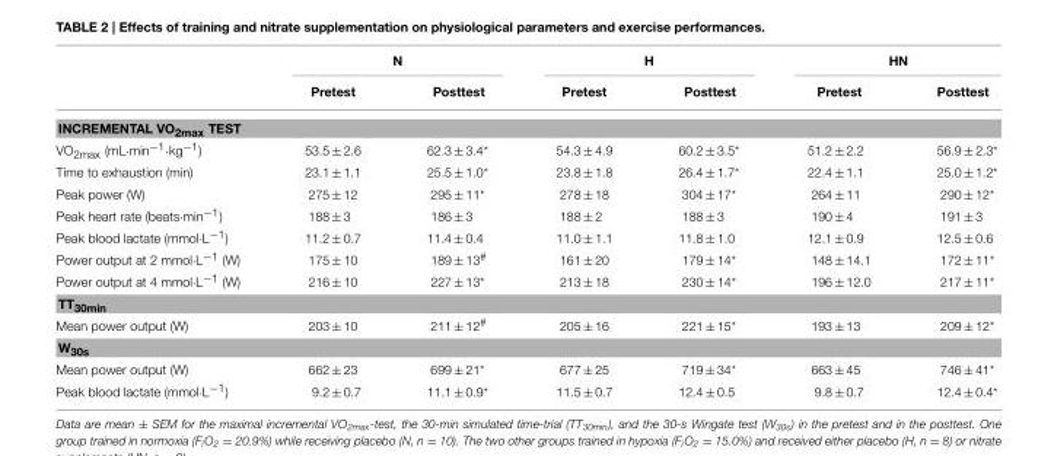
<table><thead><tr><td rowspan="2"></td><td colspan="2">N</td><td colspan="2">H</td><td colspan="2">HN</td></tr><tr><td>Pretest</td><td>Posttest</td><td>Pretest</td><td>Posttest</td><td>Pretest</td><td>Posttest</td></tr></thead><tbody><tr><td colspan="7">INCREMENTAL VO<sub>2max</sub> TEST</td></tr><tr><td>VO<sub>2max</sub> (mL·min<sup>−1</sup>·kg<sup>−1</sup>)</td><td>53.5 ± 2.6</td><td>62.3 ± 3.4*</td><td>54.3 ± 4.9</td><td>60.2 ± 3.5*</td><td>51.2 ± 2.2</td><td>56.9 ± 2.3*</td></tr><tr><td>Time to exhaustion (min)</td><td>23.1 ± 1.1</td><td>25.5 ± 1.0*</td><td>23.8 ± 1.8</td><td>26.4 ± 1.7*</td><td>22.4 ± 1.1</td><td>25.0 ± 1.2*</td></tr><tr><td>Peak power (W)</td><td>275 ± 12</td><td>295 ± 11*</td><td>278 ± 18</td><td>304 ± 17*</td><td>264 ± 11</td><td>290 ± 12*</td></tr><tr><td>Peak heart rate (beats·min<sup>−1</sup>)</td><td>188 ± 3</td><td>186 ± 3</td><td>188 ± 2</td><td>188 ± 3</td><td>190 ± 4</td><td>191 ± 3</td></tr><tr><td>Peak blood lactate (mmol·L<sup>−1</sup>)</td><td>11.2 ± 0.7</td><td>11.4 ± 0.4</td><td>11.0 ± 1.1</td><td>11.8 ± 1.0</td><td>12.1 ± 0.9</td><td>12.5 ± 0.6</td></tr><tr><td>Power output at 2 mmol·L<sup>−1</sup> (W)</td><td>175 ± 10</td><td>189 ± 13<sup>#</sup></td><td>161 ± 20</td><td>179 ± 14*</td><td>148 ± 14.1</td><td>172 ± 11*</td></tr><tr><td>Power output at 4 mmol·L<sup>−1</sup> (W)</td><td>216 ± 10</td><td>227 ± 13*</td><td>213 ± 18</td><td>230 ± 14*</td><td>196 ± 12.0</td><td>217 ± 11*</td></tr><tr><td colspan="7">TT<sub>30min</sub></td></tr><tr><td>Mean power output (W)</td><td>203 ± 10</td><td>211 ± 12<sup>#</sup></td><td>205 ± 16</td><td>221 ± 15*</td><td>193 ± 13</td><td>209 ± 12*</td></tr><tr><td colspan="7">W<sub>30s</sub></td></tr><tr><td>Mean power output (W)</td><td>662 ± 23</td><td>699 ± 21*</td><td>677 ± 25</td><td>719 ± 34*</td><td>663 ± 45</td><td>746 ± 41*</td></tr><tr><td>Peak blood lactate (mmol·L<sup>−1</sup>)</td><td>9.2 ± 0.7</td><td>11.1 ± 0.9*</td><td>11.5 ± 0.7</td><td>12.4 ± 0.5</td><td>9.8 ± 0.7</td><td>12.4 ± 0.4*</td></tr></tbody></table>